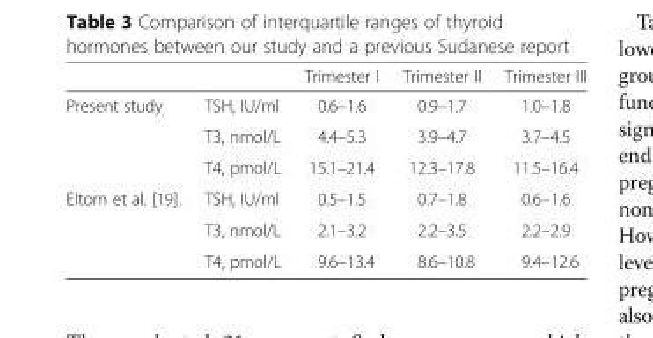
<table><thead><tr><td></td><td></td><td>Trimester I</td><td>Trimester II</td><td>Trimester III</td></tr></thead><tbody><tr><td rowspan="3">Present study</td><td>TSH, IU/ml</td><td>0.6–1.6</td><td>0.9–1.7</td><td>1.0–1.8</td></tr><tr><td>T3, nmol/L</td><td>4.4–5.3</td><td>3.9–4.7</td><td>3.7–4.5</td></tr><tr><td>T4, pmol/L</td><td>15.1–21.4</td><td>12.3–17.8</td><td>11.5–16.4</td></tr><tr><td rowspan="3">Eltom et al. [19].</td><td>TSH, IU/ml</td><td>0.5–1.5</td><td>0.7–1.8</td><td>0.6–1.6</td></tr><tr><td>T3, nmol/L</td><td>2.1–3.2</td><td>2.2–3.5</td><td>2.2–2.9</td></tr><tr><td>T4, pmol/L</td><td>9.6–13.4</td><td>8.6–10.8</td><td>9.4–12.6</td></tr></tbody></table>